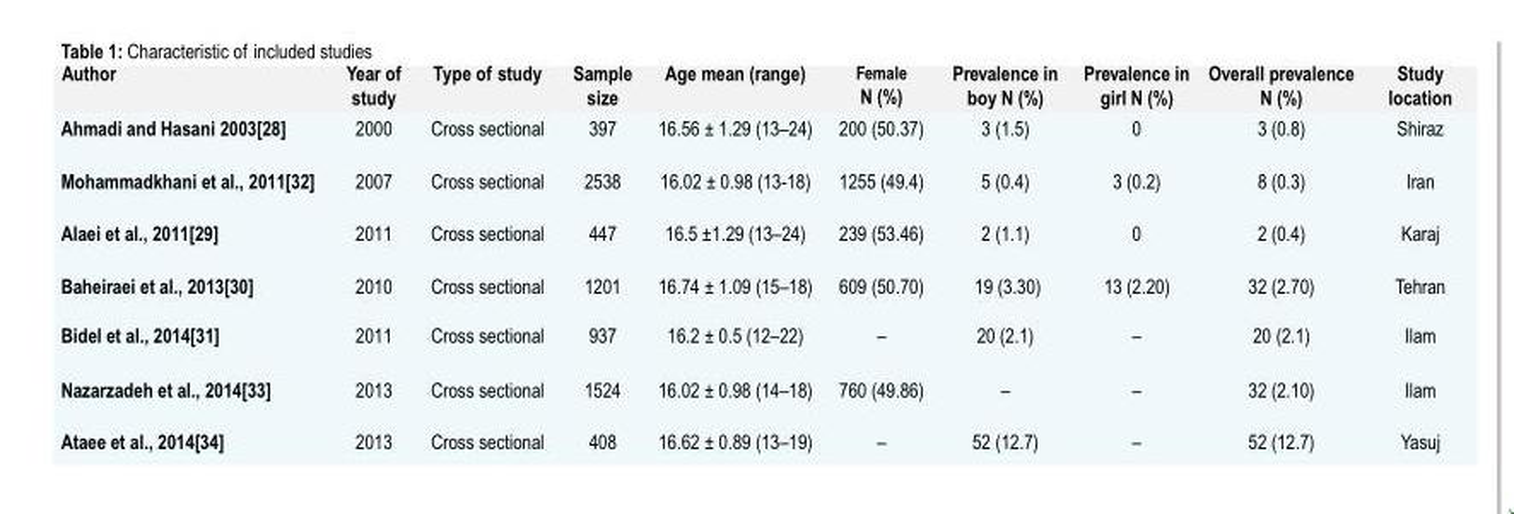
<table><thead><tr><td>Author</td><td>Year of study</td><td>Type of study</td><td>Sample size</td><td>Age mean (range)</td><td>Female N (%)</td><td>Prevalence in boy N (%)</td><td>Prevalence in girl N (%)</td><td>Overall prevalence N (%)</td><td>Study location</td></tr></thead><tbody><tr><td>Ahmadi and Hasani 2003[28]</td><td>2000</td><td>Cross sectional</td><td>397</td><td>16.56 ± 1.29 (13–24)</td><td>200 (50.37)</td><td>3 (1.5)</td><td>0</td><td>3 (0.8)</td><td>Shiraz</td></tr><tr><td>Mohammadkhani et al., 2011[32]</td><td>2007</td><td>Cross sectional</td><td>2538</td><td>16.02 ± 0.98 (13-18)</td><td>1255 (49.4)</td><td>5 (0.4)</td><td>3 (0.2)</td><td>8 (0.3)</td><td>Iran</td></tr><tr><td>Alaei et al., 2011[29]</td><td>2011</td><td>Cross sectional</td><td>447</td><td>16.5 ±1.29 (13–24)</td><td>239 (53.46)</td><td>2 (1.1)</td><td>0</td><td>2 (0.4)</td><td>Karaj</td></tr><tr><td>Baheiraei et al., 2013[30]</td><td>2010</td><td>Cross sectional</td><td>1201</td><td>16.74 ± 1.09 (15–18)</td><td>609 (50.70)</td><td>19 (3.30)</td><td>13 (2.20)</td><td>32 (2.70)</td><td>Tehran</td></tr><tr><td>Bidel et al., 2014[31]</td><td>2011</td><td>Cross sectional</td><td>937</td><td>16.2 ± 0.5 (12–22)</td><td>–</td><td>20 (2.1)</td><td>–</td><td>20 (2.1)</td><td>Ilam</td></tr><tr><td>Nazarzadeh et al., 2014[33]</td><td>2013</td><td>Cross sectional</td><td>1524</td><td>16.02 ± 0.98 (14–18)</td><td>760 (49.86)</td><td>–</td><td>–</td><td>32 (2.10)</td><td>Ilam</td></tr><tr><td>Ataee et al., 2014[34]</td><td>2013</td><td>Cross sectional</td><td>408</td><td>16.62 ± 0.89 (13–19)</td><td>–</td><td>52 (12.7)</td><td>–</td><td>52 (12.7)</td><td>Yasuj</td></tr></tbody></table>